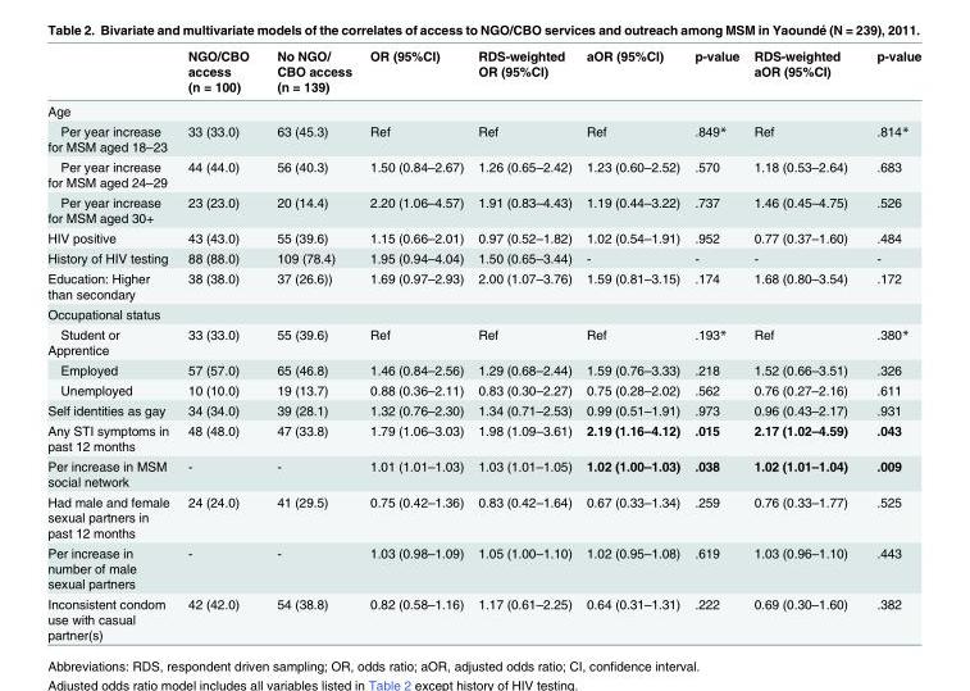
<table><thead><tr><td></td><td>NGO/CBO access (n = 100)</td><td>No NGO/ CBO access (n = 139)</td><td>OR (95%CI)</td><td>RDS-weighted OR (95%CI)</td><td>aOR (95%CI)</td><td>p-value</td><td>RDS-weighted aOR (95%CI)</td><td>p-value</td></tr></thead><tbody><tr><td colspan="9">Age</td></tr><tr><td>Per year increase for MSM aged 18–23</td><td>33 (33.0)</td><td>63 (45.3)</td><td>Ref</td><td>Ref</td><td>Ref</td><td>.849*</td><td>Ref</td><td>.814*</td></tr><tr><td>Per year increase for MSM aged 24–29</td><td>44 (44.0)</td><td>56 (40.3)</td><td>1.50 (0.84–2.67)</td><td>1.26 (0.65–2.42)</td><td>1.23 (0.60–2.52)</td><td>.570</td><td>1.18 (0.53–2.64)</td><td>.683</td></tr><tr><td>Per year increase for MSM aged 30+</td><td>23 (23.0)</td><td>20 (14.4)</td><td>2.20 (1.06–4.57)</td><td>1.91 (0.83–4.43)</td><td>1.19 (0.44–3.22)</td><td>.737</td><td>1.46 (0.45–4.75)</td><td>.526</td></tr><tr><td>HIV positive</td><td>43 (43.0)</td><td>55 (39.6)</td><td>1.15 (0.66–2.01)</td><td>0.97 (0.52–1.82)</td><td>1.02 (0.54–1.91)</td><td>.952</td><td>0.77 (0.37–1.60)</td><td>.484</td></tr><tr><td>History of HIV testing</td><td>88 (88.0)</td><td>109 (78.4)</td><td>1.95 (0.94–4.04)</td><td>1.50 (0.65–3.44)</td><td>-</td><td>-</td><td>-</td><td>-</td></tr><tr><td>Education: Higher than secondary</td><td>38 (38.0)</td><td>37 (26.6))</td><td>1.69 (0.97–2.93)</td><td>2.00 (1.07–3.76)</td><td>1.59 (0.81–3.15)</td><td>.174</td><td>1.68 (0.80–3.54)</td><td>.172</td></tr><tr><td colspan="9">Occupational status</td></tr><tr><td>Student or Apprentice</td><td>33 (33.0)</td><td>55 (39.6)</td><td>Ref</td><td>Ref</td><td>Ref</td><td>.193*</td><td>Ref</td><td>.380*</td></tr><tr><td>Employed</td><td>57 (57.0)</td><td>65 (46.8)</td><td>1.46 (0.84–2.56)</td><td>1.29 (0.68–2.44)</td><td>1.59 (0.76–3.33)</td><td>.218</td><td>1.52 (0.66–3.51)</td><td>.326</td></tr><tr><td>Unemployed</td><td>10 (10.0)</td><td>19 (13.7)</td><td>0.88 (0.36–2.11)</td><td>0.83 (0.30–2.27)</td><td>0.75 (0.28–2.02)</td><td>.562</td><td>0.76 (0.27–2.16)</td><td>.611</td></tr><tr><td>Self identities as gay</td><td>34 (34.0)</td><td>39 (28.1)</td><td>1.32 (0.76–2.30)</td><td>1.34 (0.71–2.53)</td><td>0.99 (0.51–1.91)</td><td>.973</td><td>0.96 (0.43–2.17)</td><td>.931</td></tr><tr><td>Any STI symptoms in past 12 months</td><td>48 (48.0)</td><td>47 (33.8)</td><td>1.79 (1.06–3.03)</td><td>1.98 (1.09–3.61)</td><td>2.19 (1.16–4.12)</td><td>.015</td><td>2.17 (1.02–4.59)</td><td>.043</td></tr><tr><td>Per increase in MSM social network</td><td>-</td><td>-</td><td>1.01 (1.01–1.03)</td><td>1.03 (1.01–1.05)</td><td>1.02 (1.00–1.03)</td><td>.038</td><td>1.02 (1.01–1.04)</td><td>.009</td></tr><tr><td>Had male and female sexual partners in past 12 months</td><td>24 (24.0)</td><td>41 (29.5)</td><td>0.75 (0.42–1.36)</td><td>0.83 (0.42–1.64)</td><td>0.67 (0.33–1.34)</td><td>.259</td><td>0.76 (0.33–1.77)</td><td>.525</td></tr><tr><td>Per increase in number of male sexual partners</td><td>-</td><td>-</td><td>1.03 (0.98–1.09)</td><td>1.05 (1.00–1.10)</td><td>1.02 (0.95–1.08)</td><td>.619</td><td>1.03 (0.96–1.10)</td><td>.443</td></tr><tr><td>Inconsistent condom use with casual partner(s)</td><td>42 (42.0)</td><td>54 (38.8)</td><td>0.82 (0.58–1.16)</td><td>1.17 (0.61–2.25)</td><td>0.64 (0.31–1.31)</td><td>.222</td><td>0.69 (0.30–1.60)</td><td>.382</td></tr></tbody></table>